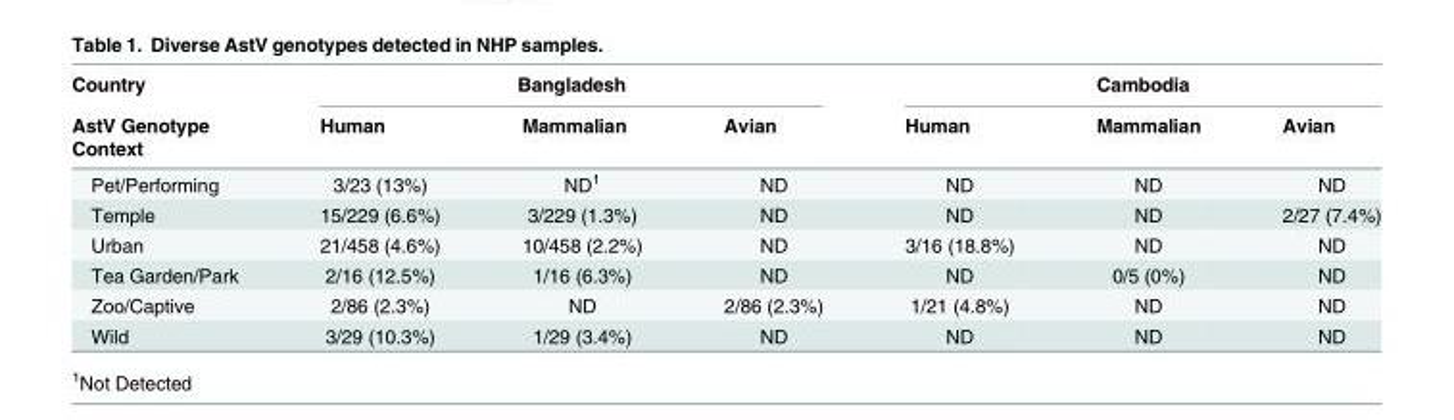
<table><thead><tr><td rowspan="3">Country AstV Genotype Context</td><td colspan="3">Bangladesh</td><td colspan="3">Cambodia</td></tr><tr><td rowspan="2">Human</td><td rowspan="2">Mammalian</td><td rowspan="2">Avian</td><td rowspan="2">Human</td><td rowspan="2">Mammalian</td><td rowspan="2">Avian</td></tr><tr></tr></thead><tbody><tr><td>Pet/Performing</td><td>3/23 (13%)</td><td>ND<sup>1</sup></td><td>ND</td><td>ND</td><td>ND</td><td>ND</td></tr><tr><td>Temple</td><td>15/229 (6.6%)</td><td>3/229 (1.3%)</td><td>ND</td><td>ND</td><td>ND</td><td>2/27 (7.4%)</td></tr><tr><td>Urban</td><td>21/458 (4.6%)</td><td>10/458 (2.2%)</td><td>ND</td><td>3/16 (18.8%)</td><td>ND</td><td>ND</td></tr><tr><td>Tea Garden/Park</td><td>2/16 (12.5%)</td><td>1/16 (6.3%)</td><td>ND</td><td>ND</td><td>0/5 (0%)</td><td>ND</td></tr><tr><td>Zoo/Captive</td><td>2/86 (2.3%)</td><td>ND</td><td>2/86 (2.3%)</td><td>1/21 (4.8%)</td><td>ND</td><td>ND</td></tr><tr><td>Wild</td><td>3/29 (10.3%)</td><td>1/29 (3.4%)</td><td>ND</td><td>ND</td><td>ND</td><td>ND</td></tr></tbody></table>